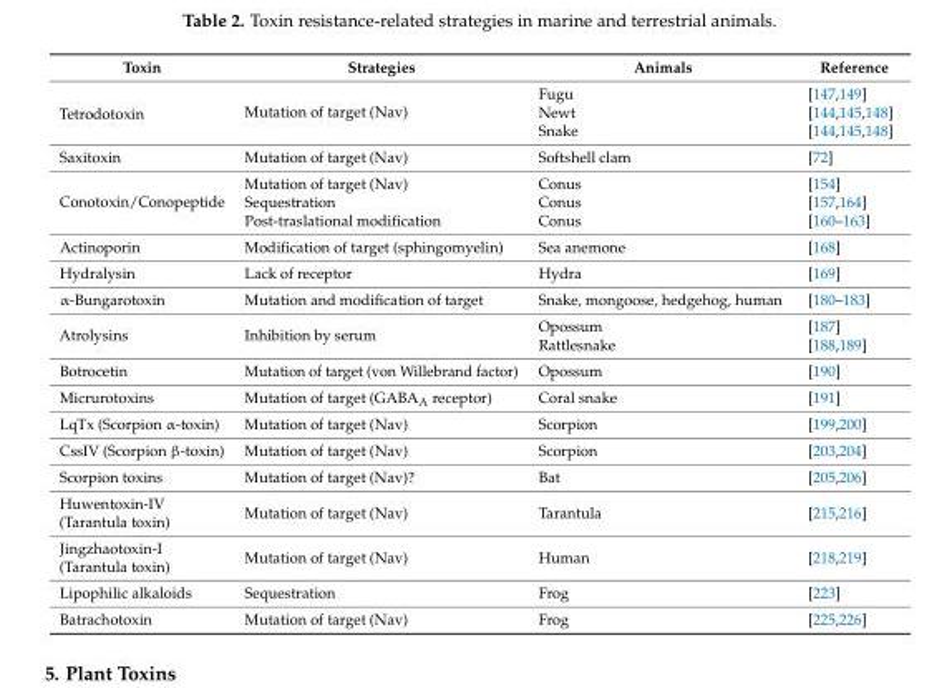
<table><thead><tr><td>Toxin</td><td>Strategies</td><td>Animals</td><td>Reference</td></tr></thead><tbody><tr><td rowspan="3">Tetrodotoxin</td><td rowspan="3">Mutation of target (Nav)</td><td>Fugu</td><td>[147,149]</td></tr><tr><td>Newt</td><td>[144,145,148]</td></tr><tr><td>Snake</td><td>[144,145,148]</td></tr><tr><td>Saxitoxin</td><td>Mutation of target (Nav)</td><td>Softshell clam</td><td>[72]</td></tr><tr><td rowspan="3">Conotoxin/Conopeptide</td><td>Mutation of target (Nav)</td><td>Conus</td><td>[154]</td></tr><tr><td>Sequestration</td><td>Conus</td><td>[157,164]</td></tr><tr><td>Post-traslational modification</td><td>Conus</td><td>[160–163]</td></tr><tr><td>Actinoporin</td><td>Modification of target (sphingomyelin)</td><td>Sea anemone</td><td>[168]</td></tr><tr><td>Hydralysin</td><td>Lack of receptor</td><td>Hydra</td><td>[169]</td></tr><tr><td>α-Bungarotoxin</td><td>Mutation and modification of target</td><td>Snake, mongoose, hedgehog, human</td><td>[180–183]</td></tr><tr><td rowspan="2">Atrolysins</td><td rowspan="2">Inhibition by serum</td><td>Opossum</td><td>[187]</td></tr><tr><td>Rattlesnake</td><td>[188,189]</td></tr><tr><td>Botrocetin</td><td>Mutation of target (von Willebrand factor)</td><td>Opossum</td><td>[190]</td></tr><tr><td>Micrurotoxins</td><td>Mutation of target (GABA<sub>A</sub> receptor)</td><td>Coral snake</td><td>[191]</td></tr><tr><td>LqTx (Scorpion α-toxin)</td><td>Mutation of target (Nav)</td><td>Scorpion</td><td>[199,200]</td></tr><tr><td>CssIV (Scorpion β-toxin)</td><td>Mutation of target (Nav)</td><td>Scorpion</td><td>[203,204]</td></tr><tr><td>Scorpion toxins</td><td>Mutation of target (Nav)?</td><td>Bat</td><td>[205,206]</td></tr><tr><td>Huwentoxin-IV (Tarantula toxin)</td><td>Mutation of target (Nav)</td><td>Tarantula</td><td>[215,216]</td></tr><tr><td>Jingzhaotoxin-I (Tarantula toxin)</td><td>Mutation of target (Nav)</td><td>Human</td><td>[218,219]</td></tr><tr><td>Lipophilic alkaloids</td><td>Sequestration</td><td>Frog</td><td>[223]</td></tr><tr><td>Batrachotoxin</td><td>Mutation of target (Nav)</td><td>Frog</td><td>[225,226]</td></tr></tbody></table>